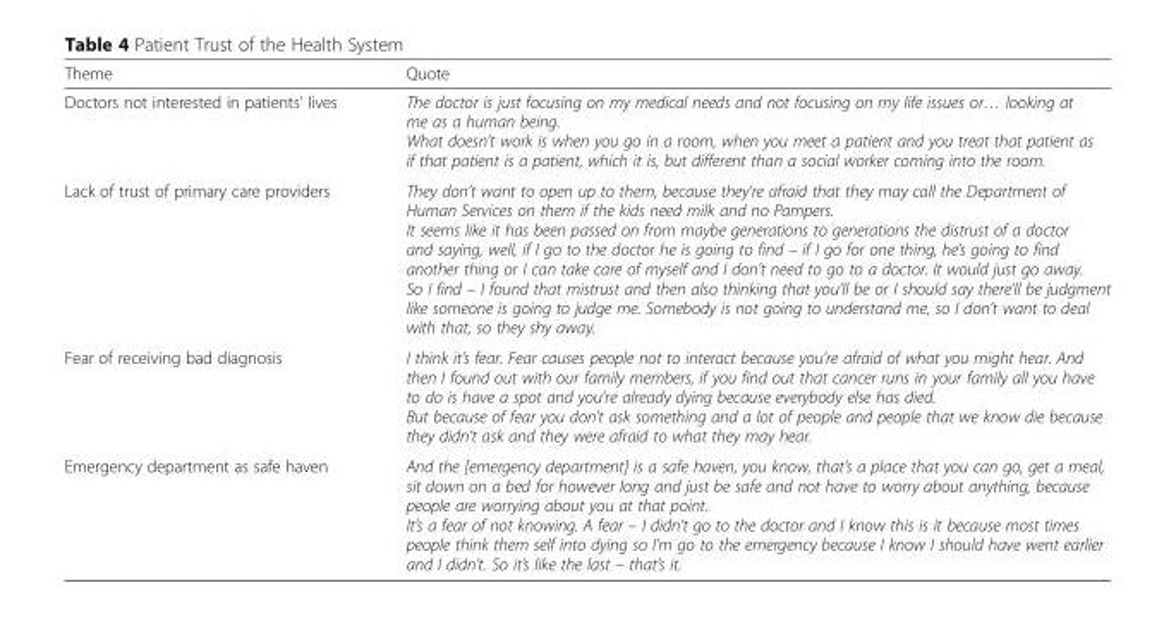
<table><thead><tr><td>Theme</td><td>Quote</td></tr></thead><tbody><tr><td>Doctors not interested in patients’ lives</td><td>The doctor is just focusing on my medical needs and not focusing on my life issues or… looking at me as a human being. What doesn’t work is when you go in a room, when you meet a patient and you treat that patient as if that patient is a patient, which it is, but different than a social worker coming into the room.</td></tr><tr><td>Lack of trust of primary care providers</td><td>They don’t want to open up to them, because they’re afraid that they may call the Department of Human Services on them if the kids need milk and no Pampers. It seems like it has been passed on from maybe generations to generations the distrust of a doctor and saying, well, if I go to the doctor he is going to find – if I go for one thing, he’s going to find another thing or I can take care of myself and I don’t need to go to a doctor. It would just go away. So I find – I found that mistrust and then also thinking that you’ll be or I should say there’ll be judgment like someone is going to judge me. Somebody is not going to understand me, so I don’t want to deal with that, so they shy away.</td></tr><tr><td>Fear of receiving bad diagnosis</td><td>I think it’s fear. Fear causes people not to interact because you’re afraid of what you might hear. And then I found out with our family members, if you find out that cancer runs in your family all you have to do is have a spot and you’re already dying because everybody else has died. But because of fear you don’t ask something and a lot of people and people that we know die because they didn’t ask and they were afraid to what they may hear.</td></tr><tr><td>Emergency department as safe haven</td><td>And the [emergency department] is a safe haven, you know, that’s a place that you can go, get a meal, sit down on a bed for however long and just be safe and not have to worry about anything, because people are worrying about you at that point. It’s a fear of not knowing. A fear – I didn’t go to the doctor and I know this is it because most times people think them self into dying so I’m go to the emergency because I know I should have went earlier and I didn’t. So it’s like the last – that’s it.</td></tr></tbody></table>